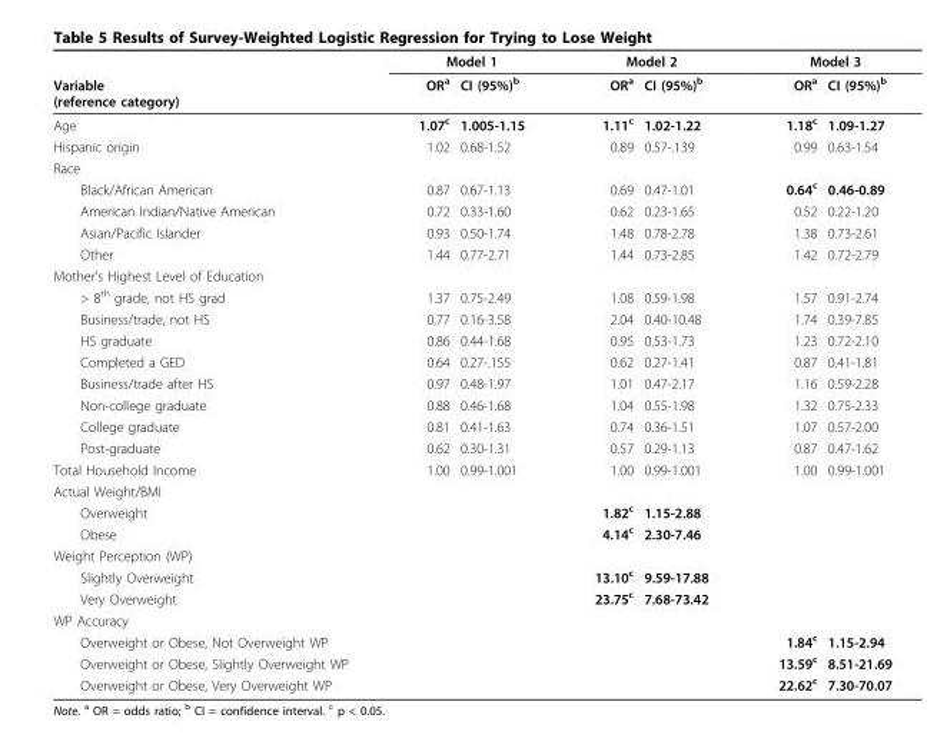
<table><thead><tr><td rowspan="2">Variable (reference category)</td><td colspan="2">Model 1</td><td colspan="2">Model 2</td><td colspan="2">Model 3</td></tr><tr><td>OR<sup>a</sup></td><td>CI (95%)<sup>b</sup></td><td>OR<sup>a</sup></td><td>CI (95%)<sup>b</sup></td><td>OR<sup>a</sup></td><td>CI (95%)<sup>b</sup></td></tr></thead><tbody><tr><td>Age</td><td>1.07<sup>c</sup></td><td>1.005-1.15</td><td>1.11<sup>c</sup></td><td>1.02-1.22</td><td>1.18<sup>c</sup></td><td>1.09-1.27</td></tr><tr><td>Hispanic origin</td><td>1.02</td><td>0.68-1.52</td><td>0.89</td><td>0.57-.139</td><td>0.99</td><td>0.63-1.54</td></tr><tr><td colspan="7">Race</td></tr><tr><td>Black/African American</td><td>0.87</td><td>0.67-1.13</td><td>0.69</td><td>0.47-1.01</td><td>0.64<sup>c</sup></td><td>0.46-0.89</td></tr><tr><td>American Indian/Native American</td><td>0.72</td><td>0.33-1.60</td><td>0.62</td><td>0.23-1.65</td><td>0.52</td><td>0.22-1.20</td></tr><tr><td>Asian/Pacific Islander</td><td>0.93</td><td>0.50-1.74</td><td>1.48</td><td>0.78-2.78</td><td>1.38</td><td>0.73-2.61</td></tr><tr><td>Other</td><td>1.44</td><td>0.77-2.71</td><td>1.44</td><td>0.73-2.85</td><td>1.42</td><td>0.72-2.79</td></tr><tr><td colspan="7">Mother’s Highest Level of Education</td></tr><tr><td>&gt; 8<sup>th</sup> grade, not HS grad</td><td>1.37</td><td>0.75-2.49</td><td>1.08</td><td>0.59-1.98</td><td>1.57</td><td>0.91-2.74</td></tr><tr><td>Business/trade, not HS</td><td>0.77</td><td>0.16-3.58</td><td>2.04</td><td>0.40-10.48</td><td>1.74</td><td>0.39-7.85</td></tr><tr><td>HS graduate</td><td>0.86</td><td>0.44-1.68</td><td>0.95</td><td>0.53-1.73</td><td>1.23</td><td>0.72-2.10</td></tr><tr><td>Completed a GED</td><td>0.64</td><td>0.27-.155</td><td>0.62</td><td>0.27-1.41</td><td>0.87</td><td>0.41-1.81</td></tr><tr><td>Business/trade after HS</td><td>0.97</td><td>0.48-1.97</td><td>1.01</td><td>0.47-2.17</td><td>1.16</td><td>0.59-2.28</td></tr><tr><td>Non-college graduate</td><td>0.88</td><td>0.46-1.68</td><td>1.04</td><td>0.55-1.98</td><td>1.32</td><td>0.75-2.33</td></tr><tr><td>College graduate</td><td>0.81</td><td>0.41-1.63</td><td>0.74</td><td>0.36-1.51</td><td>1.07</td><td>0.57-2.00</td></tr><tr><td>Post-graduate</td><td>0.62</td><td>0.30-1.31</td><td>0.57</td><td>0.29-1.13</td><td>0.87</td><td>0.47-1.62</td></tr><tr><td>Total Household Income</td><td>1.00</td><td>0.99-1.001</td><td>1.00</td><td>0.99-1.001</td><td>1.00</td><td>0.99-1.001</td></tr><tr><td colspan="7">Actual Weight/BMI</td></tr><tr><td>Overweight</td><td></td><td></td><td>1.82<sup>c</sup></td><td>1.15-2.88</td><td></td><td></td></tr><tr><td>Obese</td><td></td><td></td><td>4.14<sup>c</sup></td><td>2.30-7.46</td><td></td><td></td></tr><tr><td colspan="7">Weight Perception (WP)</td></tr><tr><td>Slightly Overweight</td><td></td><td></td><td>13.10<sup>c</sup></td><td>9.59-17.88</td><td></td><td></td></tr><tr><td>Very Overweight</td><td></td><td></td><td>23.75<sup>c</sup></td><td>7.68-73.42</td><td></td><td></td></tr><tr><td colspan="7">WP Accuracy</td></tr><tr><td>Overweight or Obese, Not Overweight WP</td><td></td><td></td><td></td><td></td><td>1.84<sup>c</sup></td><td>1.15-2.94</td></tr><tr><td>Overweight or Obese, Slightly Overweight WP</td><td></td><td></td><td></td><td></td><td>13.59<sup>c</sup></td><td>8.51-21.69</td></tr><tr><td>Overweight or Obese, Very Overweight WP</td><td></td><td></td><td></td><td></td><td>22.62<sup>c</sup></td><td>7.30-70.07</td></tr></tbody></table>